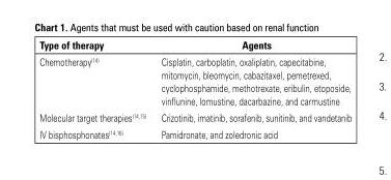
<table><thead><tr><td>Type of therapy</td><td>Agents</td></tr></thead><tbody><tr><td>Chemotherapy<sup>(14)</sup></td><td>Cisplatin, carboplatin, oxaliplatin, capecitabine, mitomycin, bleomycin, cabazitaxel, pemetrexed, cyclophosphamide, methotrexate, eribulin, etoposide, vinflunine, lomustine, dacarbazine, and carmustine</td></tr><tr><td>Molecular target therapies<sup>(14,15)</sup></td><td>Crizotinib, imatinib, sorafenib, sunitinib, and vandetanib</td></tr><tr><td>IV bisphosphonates<sup>(14,16)</sup></td><td>Pamidronate, and zoledronic acid</td></tr></tbody></table>